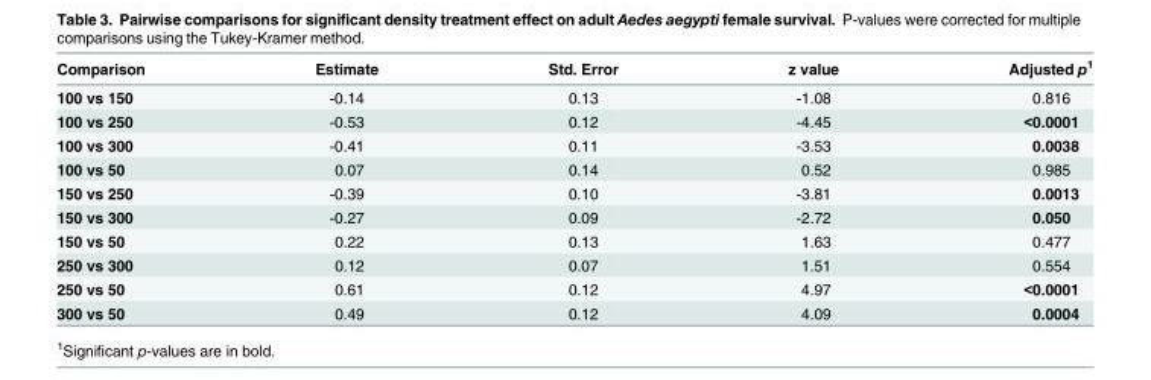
<table><thead><tr><td>Comparison</td><td>Estimate</td><td>Std. Error</td><td>z value</td><td>Adjusted p<sup>1</sup></td></tr></thead><tbody><tr><td>100 vs 150</td><td>-0.14</td><td>0.13</td><td>-1.08</td><td>0.816</td></tr><tr><td>100 vs 250</td><td>-0.53</td><td>0.12</td><td>-4.45</td><td>&lt;0.0001</td></tr><tr><td>100 vs 300</td><td>-0.41</td><td>0.11</td><td>-3.53</td><td>0.0038</td></tr><tr><td>100 vs 50</td><td>0.07</td><td>0.14</td><td>0.52</td><td>0.985</td></tr><tr><td>150 vs 250</td><td>-0.39</td><td>0.10</td><td>-3.81</td><td>0.0013</td></tr><tr><td>150 vs 300</td><td>-0.27</td><td>0.09</td><td>-2.72</td><td>0.050</td></tr><tr><td>150 vs 50</td><td>0.22</td><td>0.13</td><td>1.63</td><td>0.477</td></tr><tr><td>250 vs 300</td><td>0.12</td><td>0.07</td><td>1.51</td><td>0.554</td></tr><tr><td>250 vs 50</td><td>0.61</td><td>0.12</td><td>4.97</td><td>&lt;0.0001</td></tr><tr><td>300 vs 50</td><td>0.49</td><td>0.12</td><td>4.09</td><td>0.0004</td></tr></tbody></table>